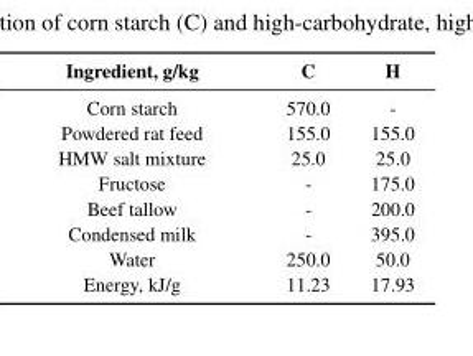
<table><thead><tr><td>Ingredient, g/kg</td><td>C</td><td>H</td></tr></thead><tbody><tr><td>Corn starch</td><td>570.0</td><td>-</td></tr><tr><td>Powdered rat feed</td><td>155.0</td><td>155.0</td></tr><tr><td>HMW salt mixture</td><td>25.0</td><td>25.0</td></tr><tr><td>Fructose</td><td>-</td><td>175.0</td></tr><tr><td>Beef tallow</td><td>-</td><td>200.0</td></tr><tr><td>Condensed milk</td><td>-</td><td>395.0</td></tr><tr><td>Water</td><td>250.0</td><td>50.0</td></tr><tr><td>Energy, kJ/g</td><td>11.23</td><td>17.93</td></tr></tbody></table>